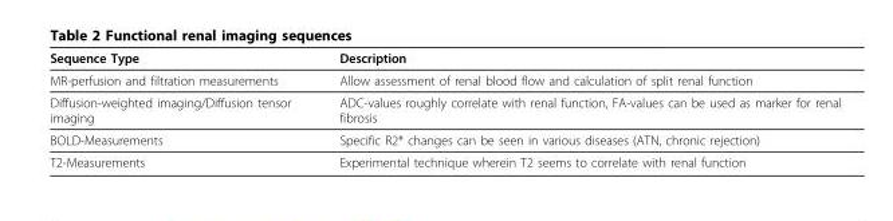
<table><thead><tr><td>Sequence Type</td><td>Description</td></tr></thead><tbody><tr><td>MR-perfusion and filtration measurements</td><td>Allow assessment of renal blood flow and calculation of split renal function</td></tr><tr><td>Diffusion-weighted imaging/Diffusion tensor imaging</td><td>ADC-values roughly correlate with renal function, FA-values can be used as marker for renal fibrosis</td></tr><tr><td>BOLD-Measurements</td><td>Specific R2* changes can be seen in various diseases (ATN, chronic rejection)</td></tr><tr><td>T2-Measurements</td><td>Experimental technique wherein T2 seems to correlate with renal function</td></tr></tbody></table>